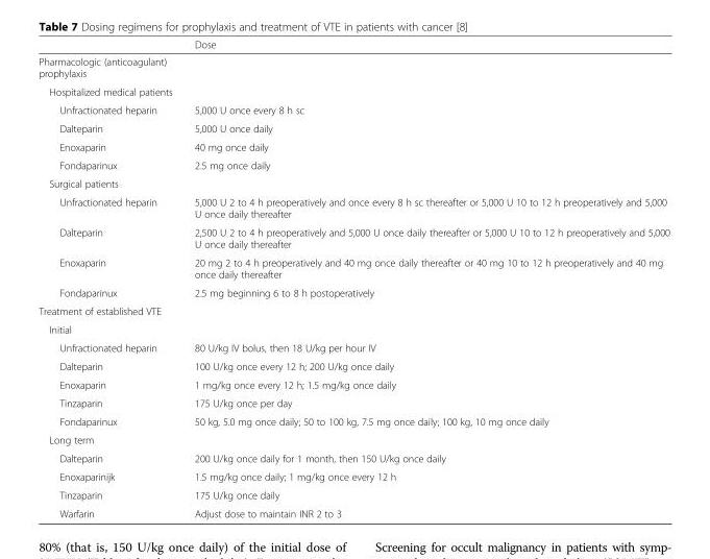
<table><thead><tr><td></td><td>Dose</td></tr></thead><tbody><tr><td colspan="2">Pharmacologic (anticoagulant) prophylaxis</td></tr><tr><td colspan="2">Hospitalized medical patients</td></tr><tr><td>Unfractionated heparin</td><td>5,000 U once every 8 h sc</td></tr><tr><td>Dalteparin</td><td>5,000 U once daily</td></tr><tr><td>Enoxaparin</td><td>40 mg once daily</td></tr><tr><td>Fondaparinux</td><td>2.5 mg once daily</td></tr><tr><td colspan="2">Surgical patients</td></tr><tr><td>Unfractionated heparin</td><td>5,000 U 2 to 4 h preoperatively and once every 8 h sc thereafter or 5,000 U 10 to 12 h preoperatively and 5,000 U once daily thereafter</td></tr><tr><td>Dalteparin</td><td>2,500 U 2 to 4 h preoperatively and 5,000 U once daily thereafter or 5,000 U 10 to 12 h preoperatively and 5,000 U once daily thereafter</td></tr><tr><td>Enoxaparin</td><td>20 mg 2 to 4 h preoperatively and 40 mg once daily thereafter or 40 mg 10 to 12 h preoperatively and 40 mg once daily thereafter</td></tr><tr><td>Fondaparinux</td><td>2.5 mg beginning 6 to 8 h postoperatively</td></tr><tr><td colspan="2">Treatment of established VTE</td></tr><tr><td colspan="2">Initial</td></tr><tr><td>Unfractionated heparin</td><td>80 U/kg IV bolus, then 18 U/kg per hour IV</td></tr><tr><td>Dalteparin</td><td>100 U/kg once every 12 h; 200 U/kg once daily</td></tr><tr><td>Enoxaparin</td><td>1 mg/kg once every 12 h; 1.5 mg/kg once daily</td></tr><tr><td>Tinzaparin</td><td>175 U/kg once per day</td></tr><tr><td>Fondaparinux</td><td>50 kg, 5.0 mg once daily; 50 to 100 kg, 7.5 mg once daily; 100 kg, 10 mg once daily</td></tr><tr><td colspan="2">Long term</td></tr><tr><td>Dalteparin</td><td>200 U/kg once daily for 1 month, then 150 U/kg once daily</td></tr><tr><td>Enoxaparinijk</td><td>1.5 mg/kg once daily; 1 mg/kg once every 12 h</td></tr><tr><td>Tinzaparin</td><td>175 U/kg once daily</td></tr><tr><td>Warfarin</td><td>Adjust dose to maintain INR 2 to 3</td></tr></tbody></table>